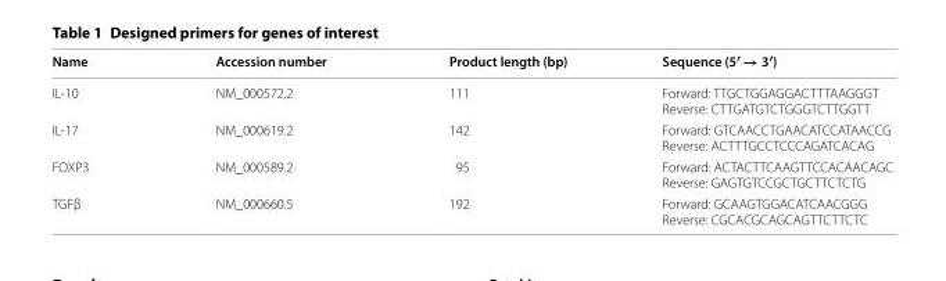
<table><thead><tr><td>Name</td><td>Accession number</td><td>Product length (bp)</td><td>Sequence (5′ → 3′)</td></tr></thead><tbody><tr><td>IL-10</td><td>NM_000572.2</td><td>111</td><td>Forward: TTGCTGGAGGACTTTAAGGGT Reverse: CTTGATGTCTGGGTCTTGGTT</td></tr><tr><td>IL-17</td><td>NM_000619.2</td><td>142</td><td>Forward: GTCAACCTGAACATCCATAACCG Reverse: ACTTTGCCTCCCAGATCACAG</td></tr><tr><td>FOXP3</td><td>NM_000589.2</td><td>95</td><td>Forward: ACTACTTCAAGTTCCACAACAGC Reverse: GAGTGTCCGCTGCTTCTCTG</td></tr><tr><td>TGFβ</td><td>NM_000660.5</td><td>192</td><td>Forward: GCAAGTGGACATCAACGGG Reverse: CGCACGCAGCAGTTCTTCTC</td></tr></tbody></table>